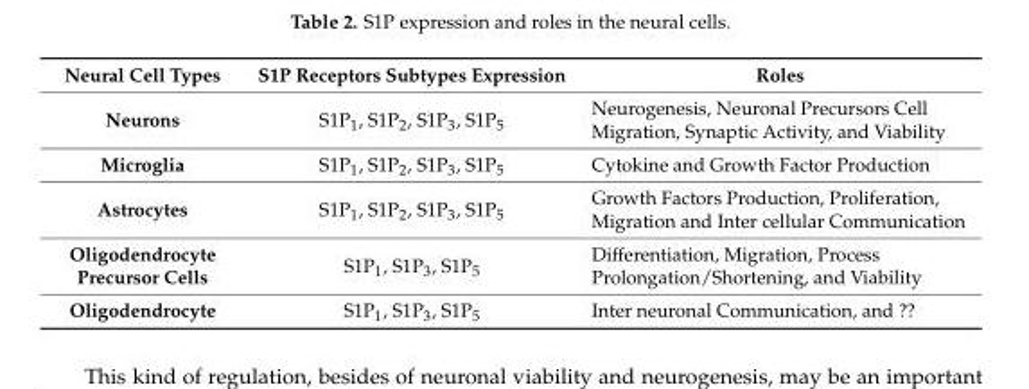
<table><thead><tr><td>Neural Cell Types</td><td>S1P Receptors Subtypes Expression</td><td>Roles</td></tr></thead><tbody><tr><td>Neurons</td><td>S1P<sub>1</sub>, S1P<sub>2</sub>, S1P<sub>3</sub>, S1P<sub>5</sub></td><td>Neurogenesis, Neuronal Precursors Cell Migration, Synaptic Activity, and Viability</td></tr><tr><td>Microglia</td><td>S1P<sub>1</sub>, S1P<sub>2</sub>, S1P<sub>3</sub>, S1P<sub>5</sub></td><td>Cytokine and Growth Factor Production</td></tr><tr><td>Astrocytes</td><td>S1P<sub>1</sub>, S1P<sub>2</sub>, S1P<sub>3</sub>, S1P<sub>5</sub></td><td>Growth Factors Production, Proliferation, Migration and Inter cellular Communication</td></tr><tr><td>Oligodendrocyte Precursor Cells</td><td>S1P<sub>1</sub>, S1P<sub>3</sub>, S1P<sub>5</sub></td><td>Differentiation, Migration, Process Prolongation/Shortening, and Viability</td></tr><tr><td>Oligodendrocyte</td><td>S1P<sub>1</sub>, S1P<sub>3</sub>, S1P<sub>5</sub></td><td>Inter neuronal Communication, and ??</td></tr></tbody></table>